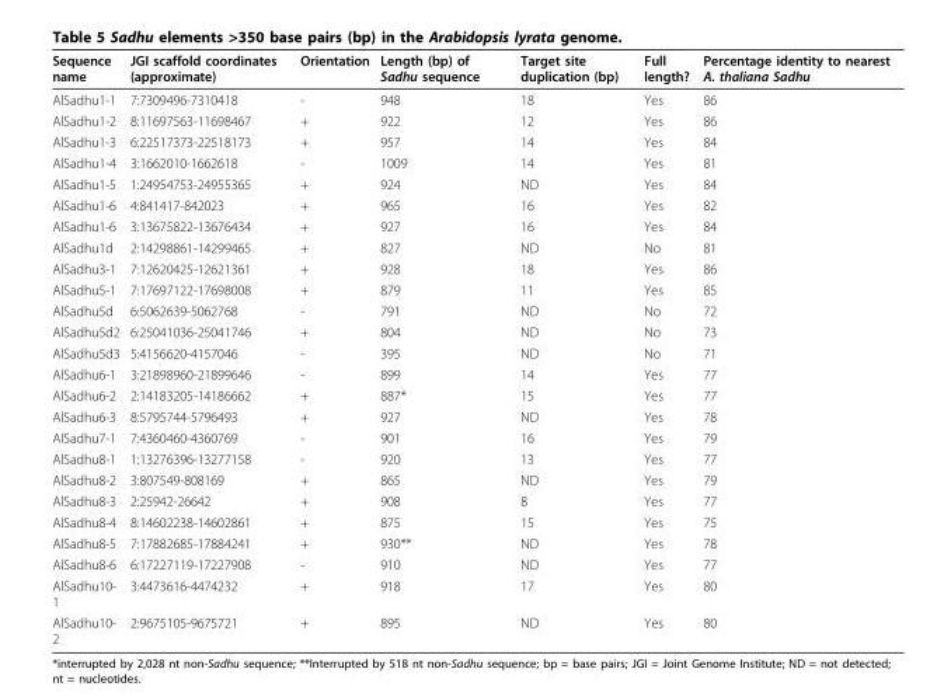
<table><thead><tr><td>Sequence name</td><td>JGI scaffold coordinates (approximate)</td><td>Orientation</td><td>Length (bp) of Sadhu sequence</td><td>Target site duplication (bp)</td><td>Full length?</td><td>Percentage identity to nearest A. thaliana Sadhu</td></tr></thead><tbody><tr><td>AlSadhu1-1</td><td>7:7309496-7310418</td><td>-</td><td>948</td><td>18</td><td>Yes</td><td>86</td></tr><tr><td>AlSadhu1-2</td><td>8:11697563-11698467</td><td>+</td><td>922</td><td>12</td><td>Yes</td><td>86</td></tr><tr><td>AlSadhu1-3</td><td>6:22517373-22518173</td><td>+</td><td>957</td><td>14</td><td>Yes</td><td>84</td></tr><tr><td>AlSadhu1-4</td><td>3:1662010-1662618</td><td>-</td><td>1009</td><td>14</td><td>Yes</td><td>81</td></tr><tr><td>AlSadhu1-5</td><td>1:24954753-24955365</td><td>+</td><td>924</td><td>ND</td><td>Yes</td><td>84</td></tr><tr><td>AlSadhu1-6</td><td>4:841417-842023</td><td>+</td><td>965</td><td>16</td><td>Yes</td><td>82</td></tr><tr><td>AlSadhu1-6</td><td>3:13675822-13676434</td><td>+</td><td>927</td><td>16</td><td>Yes</td><td>84</td></tr><tr><td>AlSadhu1d</td><td>2:14298861-14299465</td><td>+</td><td>827</td><td>ND</td><td>No</td><td>81</td></tr><tr><td>AlSadhu3-1</td><td>7:12620425-12621361</td><td>+</td><td>928</td><td>18</td><td>Yes</td><td>86</td></tr><tr><td>AlSadhu5-1</td><td>7:17697122-17698008</td><td>+</td><td>879</td><td>11</td><td>Yes</td><td>85</td></tr><tr><td>AlSadhu5d</td><td>6:5062639-5062768</td><td>-</td><td>791</td><td>ND</td><td>No</td><td>72</td></tr><tr><td>AlSadhu5d2</td><td>6:25041036-25041746</td><td>+</td><td>804</td><td>ND</td><td>No</td><td>73</td></tr><tr><td>AlSadhu5d3</td><td>5:4156620-4157046</td><td>-</td><td>395</td><td>ND</td><td>No</td><td>71</td></tr><tr><td>AlSadhu6-1</td><td>3:21898960-21899646</td><td>-</td><td>899</td><td>14</td><td>Yes</td><td>77</td></tr><tr><td>AlSadhu6-2</td><td>2:14183205-14186662</td><td>+</td><td>887*</td><td>15</td><td>Yes</td><td>77</td></tr><tr><td>AlSadhu6-3</td><td>8:5795744-5796493</td><td>+</td><td>927</td><td>ND</td><td>Yes</td><td>78</td></tr><tr><td>AlSadhu7-1</td><td>7:4360460-4360769</td><td>-</td><td>901</td><td>16</td><td>Yes</td><td>79</td></tr><tr><td>AlSadhu8-1</td><td>1:13276396-13277158</td><td>-</td><td>920</td><td>13</td><td>Yes</td><td>77</td></tr><tr><td>AlSadhu8-2</td><td>3:807549-808169</td><td>+</td><td>865</td><td>ND</td><td>Yes</td><td>79</td></tr><tr><td>AlSadhu8-3</td><td>2:25942-26642</td><td>+</td><td>908</td><td>8</td><td>Yes</td><td>77</td></tr><tr><td>AlSadhu8-4</td><td>8:14602238-14602861</td><td>+</td><td>875</td><td>15</td><td>Yes</td><td>75</td></tr><tr><td>AlSadhu8-5</td><td>7:17882685-17884241</td><td>+</td><td>930**</td><td>ND</td><td>Yes</td><td>78</td></tr><tr><td>AlSadhu8-6</td><td>6:17227119-17227908</td><td>-</td><td>910</td><td>ND</td><td>Yes</td><td>77</td></tr><tr><td>AlSadhu10- 1</td><td>3:4473616-4474232</td><td>+</td><td>918</td><td>17</td><td>Yes</td><td>80</td></tr><tr><td>AlSadhu10- 2</td><td>2:9675105-9675721</td><td>+</td><td>895</td><td>ND</td><td>Yes</td><td>80</td></tr></tbody></table>